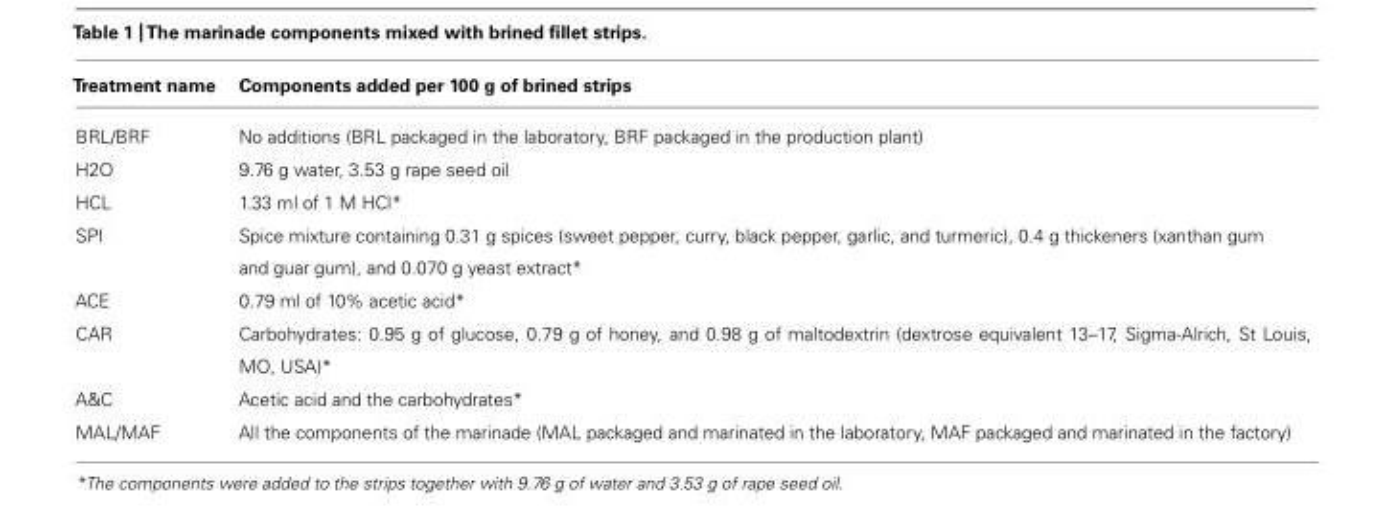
<table><thead><tr><td>Treatment name</td><td>Components added per 100 g of brined strips</td></tr></thead><tbody><tr><td>BRL/BRF</td><td>No additions (BRL packaged in the laboratory, BRF packaged in the production plant)</td></tr><tr><td>H2O</td><td>9.76 g water, 3.53 g rape seed oil</td></tr><tr><td>HCL</td><td>1.33 ml of 1 M HCl*</td></tr><tr><td>SPI</td><td>Spice mixture containing 0.31 g spices (sweet pepper, curry, black pepper, garlic, and turmeric), 0.4 g thickeners (xanthan gum and guar gum), and 0.070 g yeast extract*</td></tr><tr><td>ACE</td><td>0.79 ml of 10% acetic acid*</td></tr><tr><td>CAR</td><td>Carbohydrates: 0.95 g of glucose, 0.79 g of honey, and 0.98 g of maltodextrin (dextrose equivalent 13–17, Sigma-Alrich, St Louis, MO, USA)*</td></tr><tr><td>A&amp;C</td><td>Acetic acid and the carbohydrates*</td></tr><tr><td>MAL/MAF</td><td>All the components of the marinade (MAL packaged and marinated in the laboratory, MAF packaged and marinated in the factory)</td></tr></tbody></table>